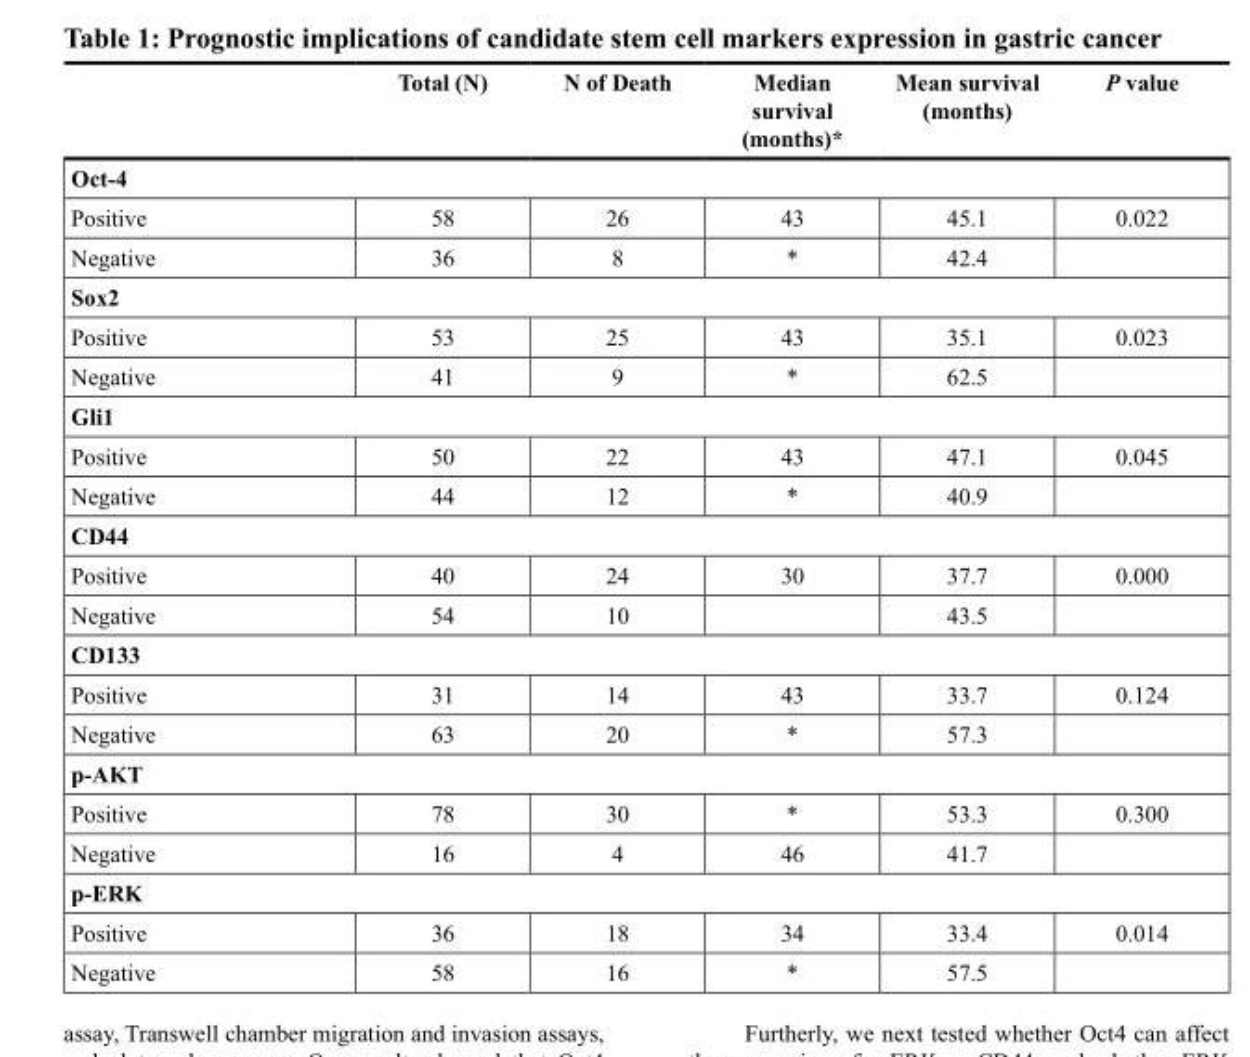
<table><thead><tr><td></td><td>Total (N)</td><td>N of Death</td><td>Median survival (months)*</td><td>Mean survival (months)</td><td>P value</td></tr></thead><tbody><tr><td colspan="6">Oct-4</td></tr><tr><td>Positive</td><td>58</td><td>26</td><td>43</td><td>45.1</td><td>0.022</td></tr><tr><td>Negative</td><td>36</td><td>8</td><td>*</td><td>42.4</td><td></td></tr><tr><td colspan="6">Sox2</td></tr><tr><td>Positive</td><td>53</td><td>25</td><td>43</td><td>35.1</td><td>0.023</td></tr><tr><td>Negative</td><td>41</td><td>9</td><td>*</td><td>62.5</td><td></td></tr><tr><td colspan="6">Gli1</td></tr><tr><td>Positive</td><td>50</td><td>22</td><td>43</td><td>47.1</td><td>0.045</td></tr><tr><td>Negative</td><td>44</td><td>12</td><td>*</td><td>40.9</td><td></td></tr><tr><td colspan="6">CD44</td></tr><tr><td>Positive</td><td>40</td><td>24</td><td>30</td><td>37.7</td><td>0.000</td></tr><tr><td>Negative</td><td>54</td><td>10</td><td></td><td>43.5</td><td></td></tr><tr><td colspan="6">CD133</td></tr><tr><td>Positive</td><td>31</td><td>14</td><td>43</td><td>33.7</td><td>0.124</td></tr><tr><td>Negative</td><td>63</td><td>20</td><td>*</td><td>57.3</td><td></td></tr><tr><td colspan="6">p-AKT</td></tr><tr><td>Positive</td><td>78</td><td>30</td><td>*</td><td>53.3</td><td>0.300</td></tr><tr><td>Negative</td><td>16</td><td>4</td><td>46</td><td>41.7</td><td></td></tr><tr><td colspan="6">p-ERK</td></tr><tr><td>Positive</td><td>36</td><td>18</td><td>34</td><td>33.4</td><td>0.014</td></tr><tr><td>Negative</td><td>58</td><td>16</td><td>*</td><td>57.5</td><td></td></tr></tbody></table>